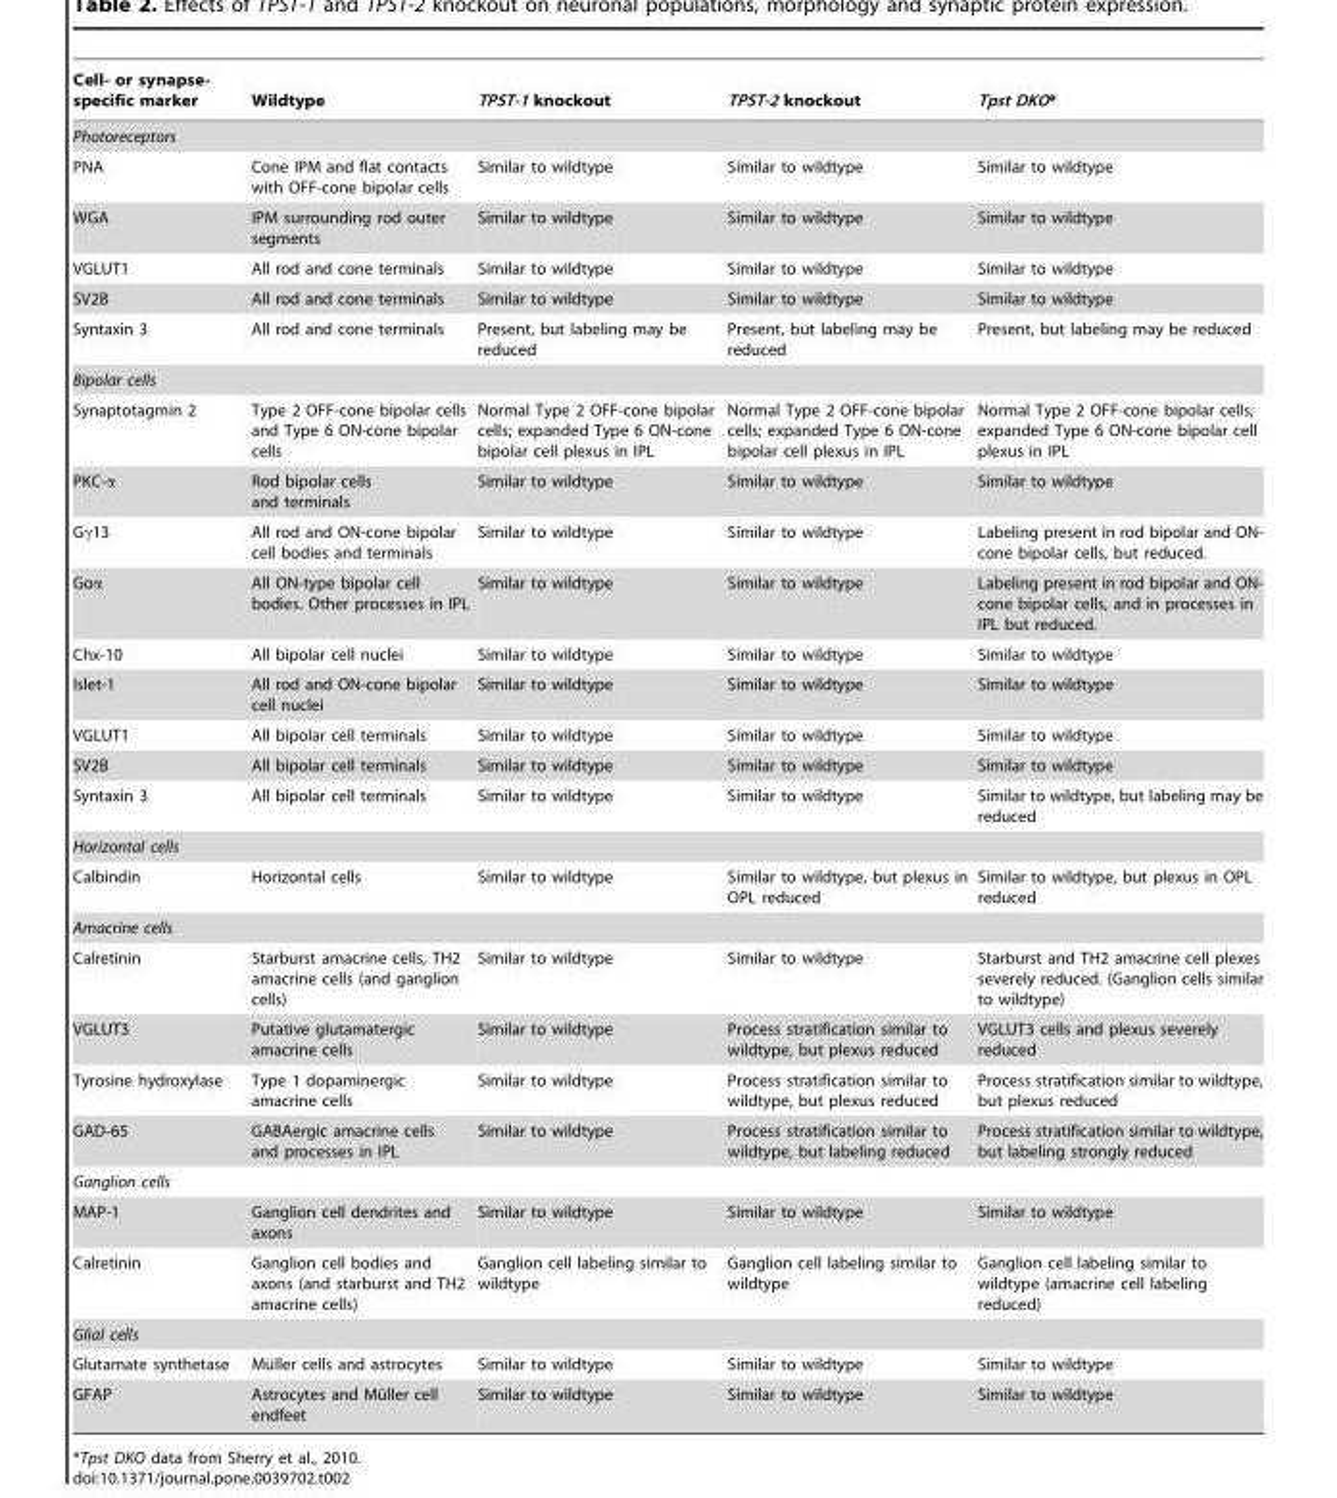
<table><thead><tr><td>Cell- or synapse- specific marker</td><td>Wildtype</td><td>TPST-1 knockout</td><td>TPST-2 knockout</td><td>Tpst DKO*</td></tr></thead><tbody><tr><td colspan="5">Photoreceptors</td></tr><tr><td>PNA</td><td>Cone IPM and flat contacts with OFF-cone bipolar cells</td><td>Similar to wildtype</td><td>Similar to wildtype</td><td>Similar to wildtype</td></tr><tr><td>WGA</td><td>IPM surrounding rod outer segments</td><td>Similar to wildtype</td><td>Similar to wildtype</td><td>Similar to wildtype</td></tr><tr><td>VGLUT1</td><td>All rod and cone terminals</td><td>Similar to wildtype</td><td>Similar to wildtype</td><td>Similar to wildtype</td></tr><tr><td>SV2B</td><td>All rod and cone terminals</td><td>Similar to wildtype</td><td>Similar to wildtype</td><td>Similar to wildtype</td></tr><tr><td>Syntaxin 3</td><td>All rod and cone terminals</td><td>Present, but labeling may be reduced</td><td>Present, but labeling may be reduced</td><td>Present, but labeling may be reduced</td></tr><tr><td colspan="5">Bipolar cells</td></tr><tr><td>Synaptotagmin 2</td><td>Type 2 OFF-cone bipolar cells and Type 6 ON-cone bipolar cells</td><td>Normal Type 2 OFF-cone bipolar cells; expanded Type 6 ON-cone bipolar cell plexus in IPL</td><td>Normal Type 2 OFF-cone bipolar cells; expanded Type 6 ON-cone bipolar cell plexus in IPL</td><td>Normal Type 2 OFF-cone bipolar cells; expanded Type 6 ON-cone bipolar cell plexus in IPL</td></tr><tr><td>PKC-α</td><td>Rod bipolar cells and terminals</td><td>Similar to wildtype</td><td>Similar to wildtype</td><td>Similar to wildtype</td></tr><tr><td>Gγ13</td><td>All rod and ON-cone bipolar cell bodies and terminals</td><td>Similar to wildtype</td><td>Similar to wildtype</td><td>Labeling present in rod bipolar and ON- cone bipolar cells, but reduced.</td></tr><tr><td>Goα</td><td>All ON-type bipolar cell bodies. Other processes in IPL</td><td>Similar to wildtype</td><td>Similar to wildtype</td><td>Labeling present in rod bipolar and ON- cone bipolar cells, and in processes in IPL but reduced.</td></tr><tr><td>Chx-10</td><td>All bipolar cell nuclei</td><td>Similar to wildtype</td><td>Similar to wildtype</td><td>Similar to wildtype</td></tr><tr><td>Islet-1</td><td>All rod and ON-cone bipolar cell nuclei</td><td>Similar to wildtype</td><td>Similar to wildtype</td><td>Similar to wildtype</td></tr><tr><td>VGLUT1</td><td>All bipolar cell terminals</td><td>Similar to wildtype</td><td>Similar to wildtype</td><td>Similar to wildtype</td></tr><tr><td>SV2B</td><td>All bipolar cell terminals</td><td>Similar to wildtype</td><td>Similar to wildtype</td><td>Similar to wildtype</td></tr><tr><td>Syntaxin 3</td><td>All bipolar cell terminals</td><td>Similar to wildtype</td><td>Similar to wildtype</td><td>Similar to wildtype, but labeling may be reduced</td></tr><tr><td colspan="5">Horizontal cells</td></tr><tr><td>Calbindin</td><td>Horizontal cells</td><td>Similar to wildtype</td><td>Similar to wildtype, but plexus in OPL reduced</td><td>Similar to wildtype, but plexus in OPL reduced</td></tr><tr><td colspan="5">Amacrine cells</td></tr><tr><td>Calretinin</td><td>Starburst amacrine cells, TH2 amacrine cells (and ganglion cells)</td><td>Similar to wildtype</td><td>Similar to wildtype</td><td>Starburst and TH2 amacrine cell plexes severely reduced. (Ganglion cells similar to wildtype)</td></tr><tr><td>VGLUT3</td><td>Putative glutamatergic amacrine cells</td><td>Similar to wildtype</td><td>Process stratification similar to wildtype, but plexus reduced</td><td>VGLUT3 cells and plexus severely reduced</td></tr><tr><td>Tyrosine hydroxylase</td><td>Type 1 dopaminergic amacrine cells</td><td>Similar to wildtype</td><td>Process stratification similar to wildtype, but plexus reduced</td><td>Process stratification similar to wildtype, but plexus reduced</td></tr><tr><td>GAD-65</td><td>GABAergic amacrine cells and processes in IPL</td><td>Similar to wildtype</td><td>Process stratification similar to wildtype, but labeling reduced</td><td>Process stratification similar to wildtype, but labeling strongly reduced</td></tr><tr><td colspan="5">Ganglion cells</td></tr><tr><td>MAP-1</td><td>Ganglion cell dendrites and axons</td><td>Similar to wildtype</td><td>Similar to wildtype</td><td>Similar to wildtype</td></tr><tr><td>Calretinin</td><td>Ganglion cell bodies and axons (and starburst and TH2 amacrine cells)</td><td>Ganglion cell labeling similar to wildtype</td><td>Ganglion cell labeling similar to wildtype</td><td>Ganglion cell labeling similar to wildtype (amacrine cell labeling reduced)</td></tr><tr><td colspan="5">Glial cells</td></tr><tr><td>Glutamate synthetase</td><td>Mu¨ller cells and astrocytes</td><td>Similar to wildtype</td><td>Similar to wildtype</td><td>Similar to wildtype</td></tr><tr><td>GFAP</td><td>Astrocytes and Mu¨ller cell endfeet</td><td>Similar to wildtype</td><td>Similar to wildtype</td><td>Similar to wildtype</td></tr></tbody></table>